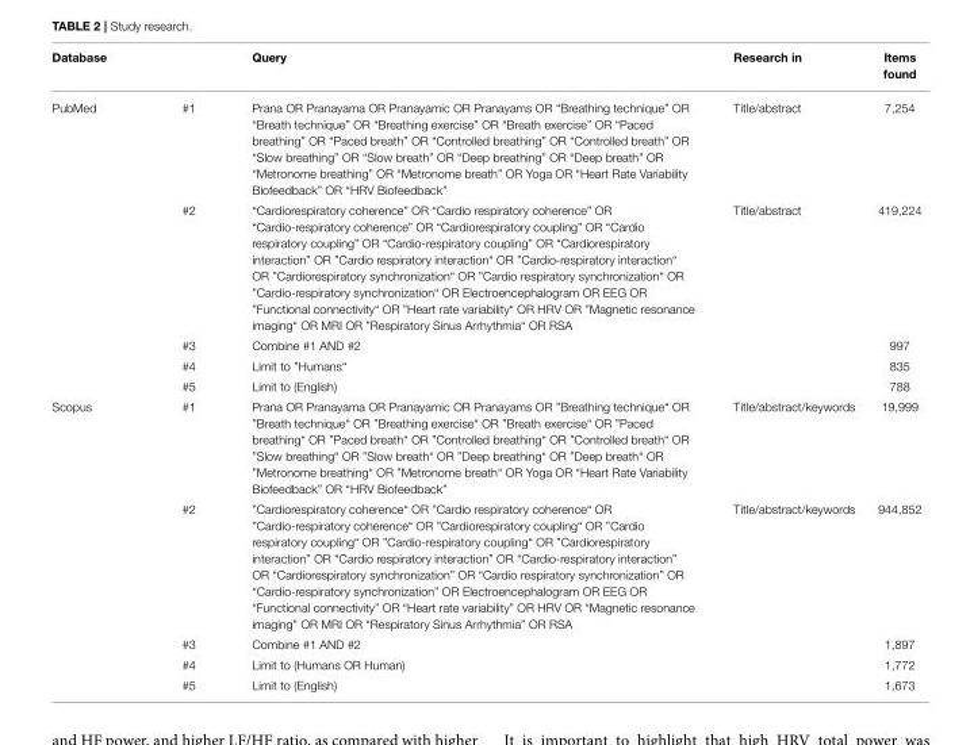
<table><thead><tr><td>Database</td><td></td><td>Query</td><td>Research in</td><td>Items found</td></tr></thead><tbody><tr><td rowspan="5">PubMed</td><td>#1</td><td>Prana OR Pranayama OR Pranayamic OR Pranayams OR “Breathing technique” OR “Breath technique” OR “Breathing exercise” OR “Breath exercise” OR “Paced breathing” OR “Paced breath” OR “Controlled breathing” OR “Controlled breath” OR “Slow breathing” OR “Slow breath” OR “Deep breathing” OR “Deep breath” OR “Metronome breathing” OR “Metronome breath” OR Yoga OR “Heart Rate Variability Biofeedback” OR “HRV Biofeedback”</td><td>Title/abstract</td><td>7,254</td></tr><tr><td>#2</td><td>“Cardiorespiratory coherence” OR “Cardio respiratory coherence” OR “Cardio-respiratory coherence” OR “Cardiorespiratory coupling” OR “Cardio respiratory coupling” OR “Cardio-respiratory coupling” OR “Cardiorespiratory interaction” OR ”Cardio respiratory interaction“ OR ”Cardio-respiratory interaction“ OR ”Cardiorespiratory synchronization“ OR ”Cardio respiratory synchronization“ OR ”Cardio-respiratory synchronization“ OR Electroencephalogram OR EEG OR ”Functional connectivity“ OR ”Heart rate variability“ OR HRV OR ”Magnetic resonance imaging“ OR MRI OR ”Respiratory Sinus Arrhythmia“ OR RSA</td><td>Title/abstract</td><td>419,224</td></tr><tr><td>#3</td><td>Combine #1 AND #2</td><td></td><td>997</td></tr><tr><td>#4</td><td>Limit to ”Humans“</td><td></td><td>835</td></tr><tr><td>#5</td><td>Limit to (English)</td><td></td><td>788</td></tr><tr><td rowspan="5">Scopus</td><td>#1</td><td>Prana OR Pranayama OR Pranayamic OR Pranayams OR ”Breathing technique“ OR ”Breath technique“ OR ”Breathing exercise“ OR ”Breath exercise“ OR ”Paced breathing“ OR ”Paced breath“ OR ”Controlled breathing“ OR ”Controlled breath“ OR ”Slow breathing“ OR ”Slow breath“ OR ”Deep breathing“ OR ”Deep breath“ OR ”Metronome breathing“ OR ”Metronome breath“ OR Yoga OR “Heart Rate Variability Biofeedback” OR “HRV Biofeedback”</td><td>Title/abstract/keywords</td><td>19,999</td></tr><tr><td>#2</td><td>”Cardiorespiratory coherence“ OR ”Cardio respiratory coherence“ OR ”Cardio-respiratory coherence“ OR ”Cardiorespiratory coupling“ OR ”Cardio respiratory coupling“ OR ”Cardio-respiratory coupling“ OR ”Cardiorespiratory interaction” OR “Cardio respiratory interaction” OR “Cardio-respiratory interaction” OR “Cardiorespiratory synchronization” OR “Cardio respiratory synchronization” OR “Cardio-respiratory synchronization” OR Electroencephalogram OR EEG OR “Functional connectivity” OR “Heart rate variability” OR HRV OR “Magnetic resonance imaging” OR MRI OR “Respiratory Sinus Arrhythmia” OR RSA</td><td>Title/abstract/keywords</td><td>944,852</td></tr><tr><td>#3</td><td>Combine #1 AND #2</td><td></td><td>1,897</td></tr><tr><td>#4</td><td>Limit to (Humans OR Human)</td><td></td><td>1,772</td></tr><tr><td>#5</td><td>Limit to (English)</td><td></td><td>1,673</td></tr></tbody></table>